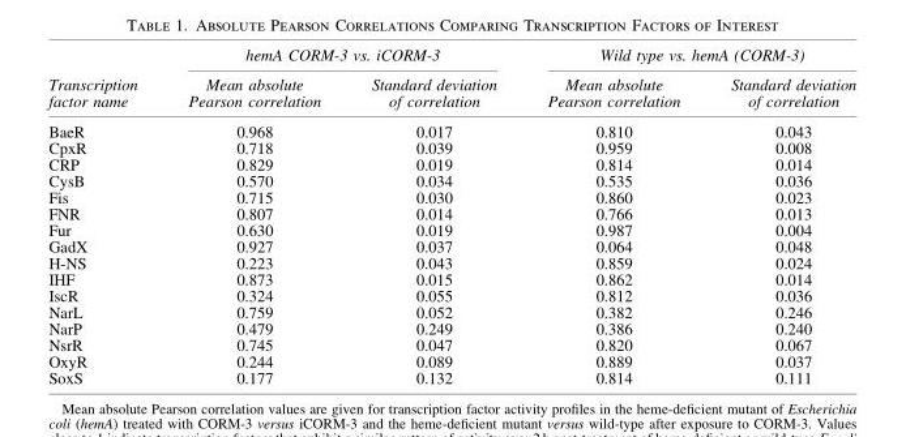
<table><thead><tr><td rowspan="2">Transcription factor name</td><td colspan="2">hemA CORM-3 vs. iCORM-3</td><td colspan="2">Wild type vs. hemA (CORM-3)</td></tr><tr><td>Mean absolute Pearson correlation</td><td>Standard deviation of correlation</td><td>Mean absolute Pearson correlation</td><td>Standard deviation of correlation</td></tr></thead><tbody><tr><td>BaeR</td><td>0.968</td><td>0.017</td><td>0.810</td><td>0.043</td></tr><tr><td>CpxR</td><td>0.718</td><td>0.039</td><td>0.959</td><td>0.008</td></tr><tr><td>CRP</td><td>0.829</td><td>0.019</td><td>0.814</td><td>0.014</td></tr><tr><td>CysB</td><td>0.570</td><td>0.034</td><td>0.535</td><td>0.036</td></tr><tr><td>Fis</td><td>0.715</td><td>0.030</td><td>0.860</td><td>0.023</td></tr><tr><td>FNR</td><td>0.807</td><td>0.014</td><td>0.766</td><td>0.013</td></tr><tr><td>Fur</td><td>0.630</td><td>0.019</td><td>0.987</td><td>0.004</td></tr><tr><td>GadX</td><td>0.927</td><td>0.037</td><td>0.064</td><td>0.048</td></tr><tr><td>H-NS</td><td>0.223</td><td>0.043</td><td>0.859</td><td>0.024</td></tr><tr><td>IHF</td><td>0.873</td><td>0.015</td><td>0.862</td><td>0.014</td></tr><tr><td>IscR</td><td>0.324</td><td>0.055</td><td>0.812</td><td>0.036</td></tr><tr><td>NarL</td><td>0.759</td><td>0.052</td><td>0.382</td><td>0.246</td></tr><tr><td>NarP</td><td>0.479</td><td>0.249</td><td>0.386</td><td>0.240</td></tr><tr><td>NsrR</td><td>0.745</td><td>0.047</td><td>0.820</td><td>0.067</td></tr><tr><td>OxyR</td><td>0.244</td><td>0.089</td><td>0.889</td><td>0.037</td></tr><tr><td>SoxS</td><td>0.177</td><td>0.132</td><td>0.814</td><td>0.111</td></tr></tbody></table>